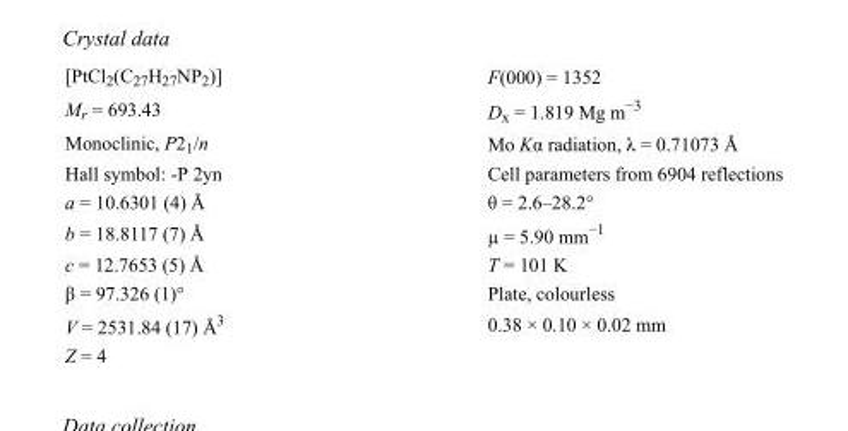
<table><tbody><tr><td>[PtCl<sub>2</sub>(C<sub>27</sub>H<sub>27</sub>NP<sub>2</sub>)]</td><td>F(000) = 1352</td></tr><tr><td>M<sub>r</sub> = 693.43</td><td>D<sub>x</sub> = 1.819 Mg m<sup>−3</sup></td></tr><tr><td>Monoclinic, P2<sub>1</sub>/n</td><td>Mo Kα radiation, λ = 0.71073 Å</td></tr><tr><td>Hall symbol: -P 2yn</td><td>Cell parameters from 6904 reflections</td></tr><tr><td>a = 10.6301 (4) Å</td><td>θ = 2.6–28.2°</td></tr><tr><td>b = 18.8117 (7) Å</td><td>µ = 5.90 mm<sup>−1</sup></td></tr><tr><td>c = 12.7653 (5) Å</td><td>T = 101 K</td></tr><tr><td>β = 97.326 (1)°</td><td>Plate, colourless</td></tr><tr><td>V = 2531.84 (17) Å<sup>3</sup></td><td>0.38 × 0.10 × 0.02 mm</td></tr><tr><td>Z = 4</td><td></td></tr></tbody></table>